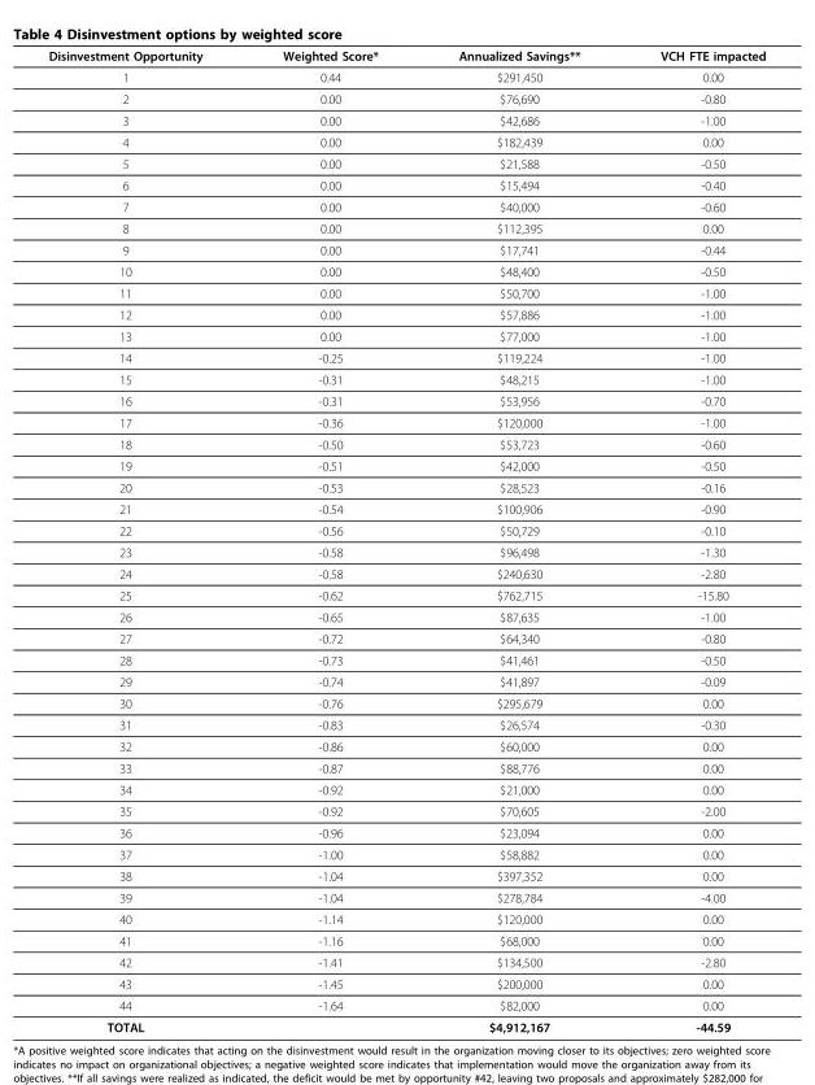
<table><thead><tr><td>Disinvestment Opportunity</td><td>Weighted Score*</td><td>Annualized Savings**</td><td>VCH FTE impacted</td></tr></thead><tbody><tr><td>1</td><td>0.44</td><td>$291,450</td><td>0.00</td></tr><tr><td>2</td><td>0.00</td><td>$76,690</td><td>-0.80</td></tr><tr><td>3</td><td>0.00</td><td>$42,686</td><td>-1.00</td></tr><tr><td>4</td><td>0.00</td><td>$182,439</td><td>0.00</td></tr><tr><td>5</td><td>0.00</td><td>$21,588</td><td>-0.50</td></tr><tr><td>6</td><td>0.00</td><td>$15,494</td><td>-0.40</td></tr><tr><td>7</td><td>0.00</td><td>$40,000</td><td>-0.60</td></tr><tr><td>8</td><td>0.00</td><td>$112,395</td><td>0.00</td></tr><tr><td>9</td><td>0.00</td><td>$17,741</td><td>-0.44</td></tr><tr><td>10</td><td>0.00</td><td>$48,400</td><td>-0.50</td></tr><tr><td>11</td><td>0.00</td><td>$50,700</td><td>-1.00</td></tr><tr><td>12</td><td>0.00</td><td>$57,886</td><td>-1.00</td></tr><tr><td>13</td><td>0.00</td><td>$77,000</td><td>-1.00</td></tr><tr><td>14</td><td>-0.25</td><td>$119,224</td><td>-1.00</td></tr><tr><td>15</td><td>-0.31</td><td>$48,215</td><td>-1.00</td></tr><tr><td>16</td><td>-0.31</td><td>$53,956</td><td>-0.70</td></tr><tr><td>17</td><td>-0.36</td><td>$120,000</td><td>-1.00</td></tr><tr><td>18</td><td>-0.50</td><td>$53,723</td><td>-0.60</td></tr><tr><td>19</td><td>-0.51</td><td>$42,000</td><td>-0.50</td></tr><tr><td>20</td><td>-0.53</td><td>$28,523</td><td>-0.16</td></tr><tr><td>21</td><td>-0.54</td><td>$100,906</td><td>-0.90</td></tr><tr><td>22</td><td>-0.56</td><td>$50,729</td><td>-0.10</td></tr><tr><td>23</td><td>-0.58</td><td>$96,498</td><td>-1.30</td></tr><tr><td>24</td><td>-0.58</td><td>$240,630</td><td>-2.80</td></tr><tr><td>25</td><td>-0.62</td><td>$762,715</td><td>-15.80</td></tr><tr><td>26</td><td>-0.65</td><td>$87,635</td><td>-1.00</td></tr><tr><td>27</td><td>-0.72</td><td>$64,340</td><td>-0.80</td></tr><tr><td>28</td><td>-0.73</td><td>$41,461</td><td>-0.50</td></tr><tr><td>29</td><td>-0.74</td><td>$41,897</td><td>-0.09</td></tr><tr><td>30</td><td>-0.76</td><td>$295,679</td><td>0.00</td></tr><tr><td>31</td><td>-0.83</td><td>$26,574</td><td>-0.30</td></tr><tr><td>32</td><td>-0.86</td><td>$60,000</td><td>0.00</td></tr><tr><td>33</td><td>-0.87</td><td>$88,776</td><td>0.00</td></tr><tr><td>34</td><td>-0.92</td><td>$21,000</td><td>0.00</td></tr><tr><td>35</td><td>-0.92</td><td>$70,605</td><td>-2.00</td></tr><tr><td>36</td><td>-0.96</td><td>$23,094</td><td>0.00</td></tr><tr><td>37</td><td>-1.00</td><td>$58,882</td><td>0.00</td></tr><tr><td>38</td><td>-1.04</td><td>$397,352</td><td>0.00</td></tr><tr><td>39</td><td>-1.04</td><td>$278,784</td><td>-4.00</td></tr><tr><td>40</td><td>-1.14</td><td>$120,000</td><td>0.00</td></tr><tr><td>41</td><td>-1.16</td><td>$68,000</td><td>0.00</td></tr><tr><td>42</td><td>-1.41</td><td>$134,500</td><td>-2.80</td></tr><tr><td>43</td><td>-1.45</td><td>$200,000</td><td>0.00</td></tr><tr><td>44</td><td>-1.64</td><td>$82,000</td><td>0.00</td></tr><tr><td>TOTAL</td><td></td><td>$4,912,167</td><td>-44.59</td></tr></tbody></table>